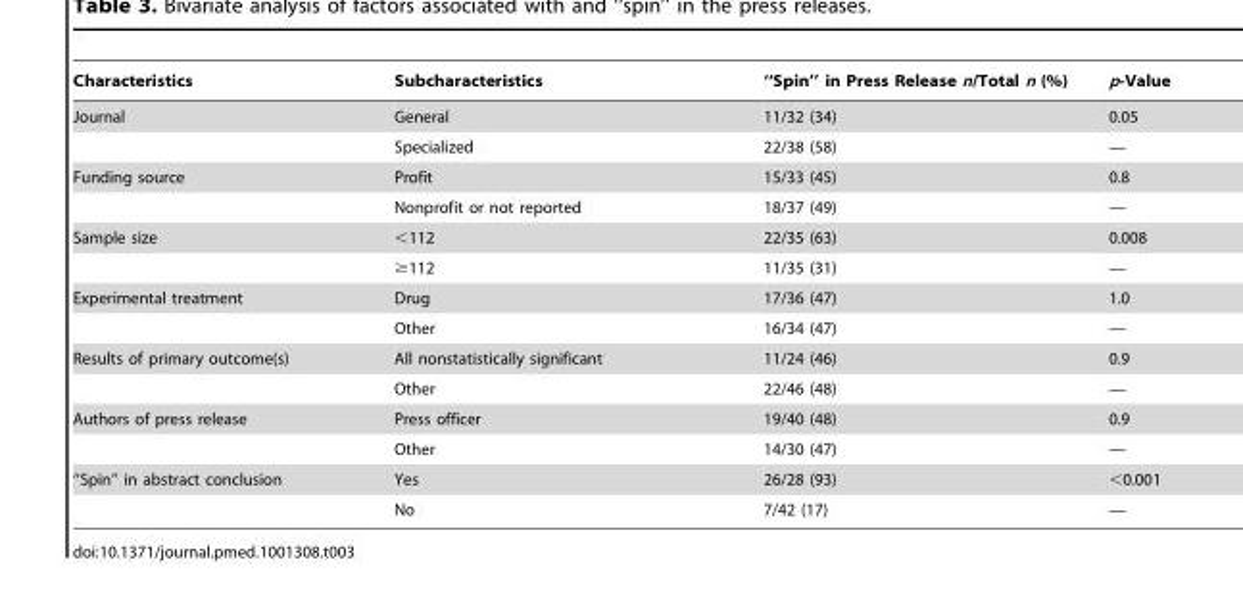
<table><thead><tr><td>Characteristics</td><td>Subcharacteristics</td><td>‘‘Spin’’ in Press Release n/Total n (%)</td><td>p-Value</td></tr></thead><tbody><tr><td rowspan="2">Journal</td><td>General</td><td>11/32 (34)</td><td>0.05</td></tr><tr><td>Specialized</td><td>22/38 (58)</td><td>—</td></tr><tr><td rowspan="2">Funding source</td><td>Profit</td><td>15/33 (45)</td><td>0.8</td></tr><tr><td>Nonprofit or not reported</td><td>18/37 (49)</td><td>—</td></tr><tr><td rowspan="2">Sample size</td><td>&lt;112</td><td>22/35 (63)</td><td>0.008</td></tr><tr><td>≥112</td><td>11/35 (31)</td><td>—</td></tr><tr><td rowspan="2">Experimental treatment</td><td>Drug</td><td>17/36 (47)</td><td>1.0</td></tr><tr><td>Other</td><td>16/34 (47)</td><td>—</td></tr><tr><td rowspan="2">Results of primary outcome(s)</td><td>All nonstatistically significant</td><td>11/24 (46)</td><td>0.9</td></tr><tr><td>Other</td><td>22/46 (48)</td><td>—</td></tr><tr><td rowspan="2">Authors of press release</td><td>Press officer</td><td>19/40 (48)</td><td>0.9</td></tr><tr><td>Other</td><td>14/30 (47)</td><td>—</td></tr><tr><td rowspan="2">‘‘Spin’’ in abstract conclusion</td><td>Yes</td><td>26/28 (93)</td><td>&lt;0.001</td></tr><tr><td>No</td><td>7/42 (17)</td><td>—</td></tr></tbody></table>